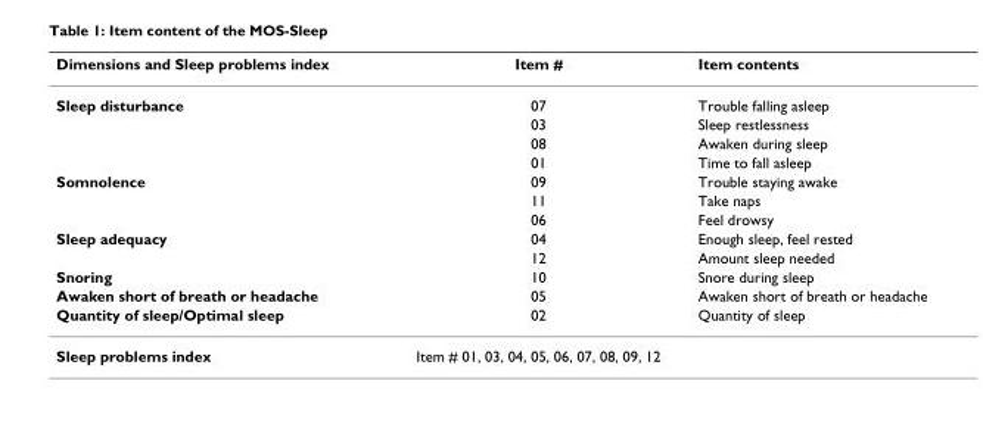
<table><thead><tr><td>Dimensions and Sleep problems index</td><td>Item #</td><td>Item contents</td></tr></thead><tbody><tr><td rowspan="4">Sleep disturbance</td><td>07</td><td>Trouble falling asleep</td></tr><tr><td>03</td><td>Sleep restlessness</td></tr><tr><td>08</td><td>Awaken during sleep</td></tr><tr><td>01</td><td>Time to fall asleep</td></tr><tr><td rowspan="3">Somnolence</td><td>09</td><td>Trouble staying awake</td></tr><tr><td>11</td><td>Take naps</td></tr><tr><td>06</td><td>Feel drowsy</td></tr><tr><td rowspan="2">Sleep adequacy</td><td>04</td><td>Enough sleep, feel rested</td></tr><tr><td>12</td><td>Amount sleep needed</td></tr><tr><td>Snoring</td><td>10</td><td>Snore during sleep</td></tr><tr><td>Awaken short of breath or headache</td><td>05</td><td>Awaken short of breath or headache</td></tr><tr><td>Quantity of sleep/Optimal sleep</td><td>02</td><td>Quantity of sleep</td></tr><tr><td>Sleep problems index</td><td>Item # 01, 03, 04, 05, 06, 07, 08, 09, 12</td><td></td></tr></tbody></table>